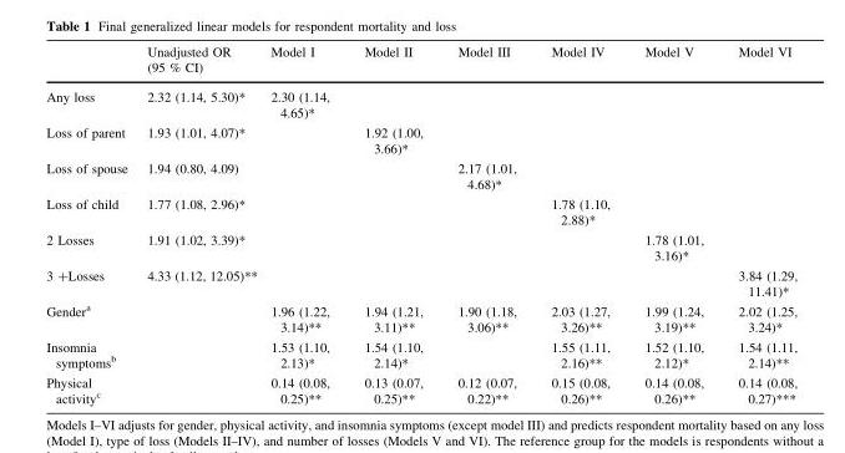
<table><thead><tr><td></td><td>Unadjusted OR (95 % CI)</td><td>Model I</td><td>Model II</td><td>Model III</td><td>Model IV</td><td>Model V</td><td>Model VI</td></tr></thead><tbody><tr><td>Any loss</td><td>2.32 (1.14, 5.30)*</td><td>2.30 (1.14, 4.65)*</td><td></td><td></td><td></td><td></td><td></td></tr><tr><td>Loss of parent</td><td>1.93 (1.01, 4.07)*</td><td></td><td>1.92 (1.00, 3.66)*</td><td></td><td></td><td></td><td></td></tr><tr><td>Loss of spouse</td><td>1.94 (0.80, 4.09)</td><td></td><td></td><td>2.17 (1.01, 4.68)*</td><td></td><td></td><td></td></tr><tr><td>Loss of child</td><td>1.77 (1.08, 2.96)*</td><td></td><td></td><td></td><td>1.78 (1.10, 2.88)*</td><td></td><td></td></tr><tr><td>2 Losses</td><td>1.91 (1.02, 3.39)*</td><td></td><td></td><td></td><td></td><td>1.78 (1.01, 3.16)*</td><td></td></tr><tr><td>3 +Losses</td><td>4.33 (1.12, 12.05)**</td><td></td><td></td><td></td><td></td><td></td><td>3.84 (1.29, 11.41)*</td></tr><tr><td>Gender<sup>a</sup></td><td></td><td>1.96 (1.22, 3.14)**</td><td>1.94 (1.21, 3.11)**</td><td>1.90 (1.18, 3.06)**</td><td>2.03 (1.27, 3.26)**</td><td>1.99 (1.24, 3.19)**</td><td>2.02 (1.25, 3.24)*</td></tr><tr><td>Insomnia symptoms<sup>b</sup></td><td></td><td>1.53 (1.10, 2.13)*</td><td>1.54 (1.10, 2.14)*</td><td></td><td>1.55 (1.11, 2.16)**</td><td>1.52 (1.10, 2.12)*</td><td>1.54 (1.11, 2.14)**</td></tr><tr><td>Physical activity<sup>c</sup></td><td></td><td>0.14 (0.08, 0.25)**</td><td>0.13 (0.07, 0.25)**</td><td>0.12 (0.07, 0.22)**</td><td>0.15 (0.08, 0.26)**</td><td>0.14 (0.08, 0.26)**</td><td>0.14 (0.08, 0.27)***</td></tr></tbody></table>